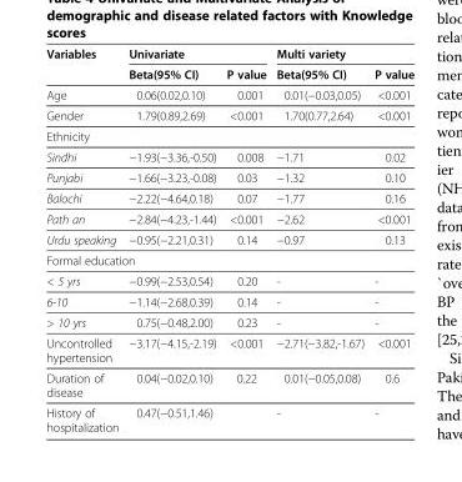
<table><thead><tr><td rowspan="2">Variables</td><td rowspan="2">Univariate Beta(95% CI)</td><td rowspan="2">P value</td><td rowspan="2">Multi variety Beta(95% CI)</td><td rowspan="2">P value</td></tr><tr></tr></thead><tbody><tr><td>Age</td><td>0.06(0.02,0.10)</td><td>0.001</td><td>0.01(−0.03,0.05)</td><td>&lt;0.001</td></tr><tr><td>Gender</td><td>1.79(0.89,2.69)</td><td>&lt;0.001</td><td>1.70(0.77,2.64)</td><td>&lt;0.001</td></tr><tr><td colspan="5">Ethnicity</td></tr><tr><td>Sindhi</td><td>−1.93(−3.36,-0.50)</td><td>0.008</td><td>−1.71</td><td>0.02</td></tr><tr><td>Punjabi</td><td>−1.66(−3.23,-0.08)</td><td>0.03</td><td>−1.32</td><td>0.10</td></tr><tr><td>Balochi</td><td>−2.22(−4.64,0.18)</td><td>0.07</td><td>−1.77</td><td>0.16</td></tr><tr><td>Path an</td><td>−2.84(−4.23,-1.44)</td><td>&lt;0.001</td><td>−2.62</td><td>&lt;0.001</td></tr><tr><td>Urdu speaking</td><td>−0.95(−2.21,0.31)</td><td>0.14</td><td>−0.97</td><td>0.13</td></tr><tr><td colspan="5">Formal education</td></tr><tr><td>&lt; 5 yrs</td><td>−0.99(−2.53,0.54)</td><td>0.20</td><td>-</td><td>-</td></tr><tr><td>6-10</td><td>−1.14(−2.68,0.39)</td><td>0.14</td><td>-</td><td>-</td></tr><tr><td>&gt; 10 yrs</td><td>0.75(−0.48,2.00)</td><td>0.23</td><td>-</td><td>-</td></tr><tr><td>Uncontrolled hypertension</td><td>−3.17(−4.15,-2.19)</td><td>&lt;0.001</td><td>−2.71(−3.82,-1.67)</td><td>&lt;0.001</td></tr><tr><td>Duration of disease</td><td>0.04(−0.02,0.10)</td><td>0.22</td><td>0.01(−0.05,0.08)</td><td>0.6</td></tr><tr><td>History of hospitalization</td><td>0.47(−0.51,1.46)</td><td></td><td>-</td><td>-</td></tr></tbody></table>